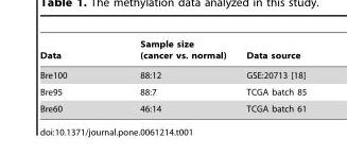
<table><thead><tr><td>Data</td><td>Sample size (cancer vs. normal)</td><td>Data source</td></tr></thead><tbody><tr><td>Bre100</td><td>88:12</td><td>GSE:20713 [18]</td></tr><tr><td>Bre95</td><td>88:7</td><td>TCGA batch 85</td></tr><tr><td>Bre60</td><td>46:14</td><td>TCGA batch 61</td></tr></tbody></table>